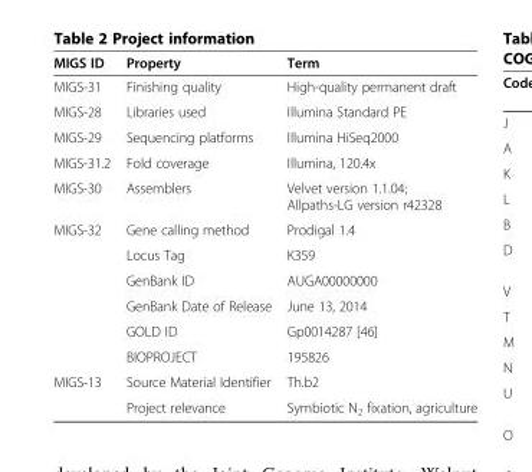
<table><thead><tr><td>MIGS ID</td><td>Property</td><td>Term</td></tr></thead><tbody><tr><td>MIGS-31</td><td>Finishing quality</td><td>High-quality permanent draft</td></tr><tr><td>MIGS-28</td><td>Libraries used</td><td>Illumina Standard PE</td></tr><tr><td>MIGS-29</td><td>Sequencing platforms</td><td>Illumina HiSeq2000</td></tr><tr><td>MIGS-31.2</td><td>Fold coverage</td><td>Illumina, 120.4x</td></tr><tr><td>MIGS-30</td><td>Assemblers</td><td>Velvet version 1.1.04; Allpaths-LG version r42328</td></tr><tr><td rowspan="6">MIGS-32</td><td>Gene calling method</td><td>Prodigal 1.4</td></tr><tr><td>Locus Tag</td><td>K359</td></tr><tr><td>GenBank ID</td><td>AUGA00000000</td></tr><tr><td>GenBank Date of Release</td><td>June 13, 2014</td></tr><tr><td>GOLD ID</td><td>Gp0014287 [46]</td></tr><tr><td>BIOPROJECT</td><td>195826</td></tr><tr><td rowspan="2">MIGS-13</td><td>Source Material Identifier</td><td>Th.b2</td></tr><tr><td>Project relevance</td><td>Symbiotic N<sub>2</sub> fixation, agriculture</td></tr></tbody></table>